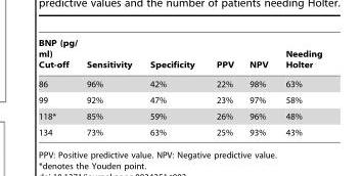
<table><thead><tr><td>BNP (pg/ ml) Cut-off</td><td>Sensitivity</td><td>Specificity</td><td>PPV</td><td>NPV</td><td>Needing Holter</td></tr></thead><tbody><tr><td>86</td><td>96%</td><td>42%</td><td>22%</td><td>98%</td><td>63%</td></tr><tr><td>99</td><td>92%</td><td>47%</td><td>23%</td><td>97%</td><td>58%</td></tr><tr><td>118*</td><td>85%</td><td>59%</td><td>26%</td><td>96%</td><td>48%</td></tr><tr><td>134</td><td>73%</td><td>63%</td><td>25%</td><td>93%</td><td>43%</td></tr></tbody></table>